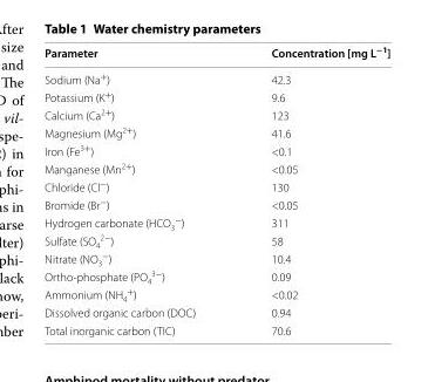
<table><thead><tr><td>Parameter</td><td>Concentration [mg L<sup>−1</sup>]</td></tr></thead><tbody><tr><td>Sodium (Na<sup>+</sup>)</td><td>42.3</td></tr><tr><td>Potassium (K<sup>+</sup>)</td><td>9.6</td></tr><tr><td>Calcium (Ca<sup>2+</sup>)</td><td>123</td></tr><tr><td>Magnesium (Mg<sup>2+</sup>)</td><td>41.6</td></tr><tr><td>Iron (Fe<sup>3+</sup>)</td><td>&lt;0.1</td></tr><tr><td>Manganese (Mn<sup>2+</sup>)</td><td>&lt;0.05</td></tr><tr><td>Chloride (Cl<sup>−</sup>)</td><td>130</td></tr><tr><td>Bromide (Br<sup>−</sup>)</td><td>&lt;0.05</td></tr><tr><td>Hydrogen carbonate (HCO<sub>3</sub> <sup>−</sup>)</td><td>311</td></tr><tr><td>Sulfate (SO<sub>4</sub> <sup>2−</sup>)</td><td>58</td></tr><tr><td>Nitrate (NO<sub>3</sub> <sup>−</sup>)</td><td>10.4</td></tr><tr><td>Ortho-phosphate (PO<sub>4</sub> <sup>3−</sup>)</td><td>0.09</td></tr><tr><td>Ammonium (NH<sub>4</sub> <sup>+</sup>)</td><td>&lt;0.02</td></tr><tr><td>Dissolved organic carbon (DOC)</td><td>0.94</td></tr><tr><td>Total inorganic carbon (TIC)</td><td>70.6</td></tr></tbody></table>